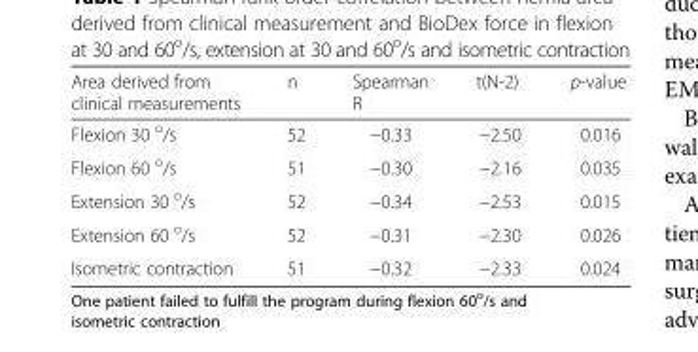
<table><thead><tr><td>Area derived from clinical measurements</td><td>n</td><td>Spearman R</td><td>t(N-2)</td><td>p-value</td></tr></thead><tbody><tr><td>Flexion 30 <sup>o</sup>/s</td><td>52</td><td>−0.33</td><td>−2.50</td><td>0.016</td></tr><tr><td>Flexion 60 <sup>o</sup>/s</td><td>51</td><td>−0.30</td><td>−2.16</td><td>0.035</td></tr><tr><td>Extension 30 <sup>o</sup>/s</td><td>52</td><td>−0.34</td><td>−2.53</td><td>0.015</td></tr><tr><td>Extension 60 <sup>o</sup>/s</td><td>52</td><td>−0.31</td><td>−2.30</td><td>0.026</td></tr><tr><td>Isometric contraction</td><td>51</td><td>−0.32</td><td>−2.33</td><td>0.024</td></tr></tbody></table>